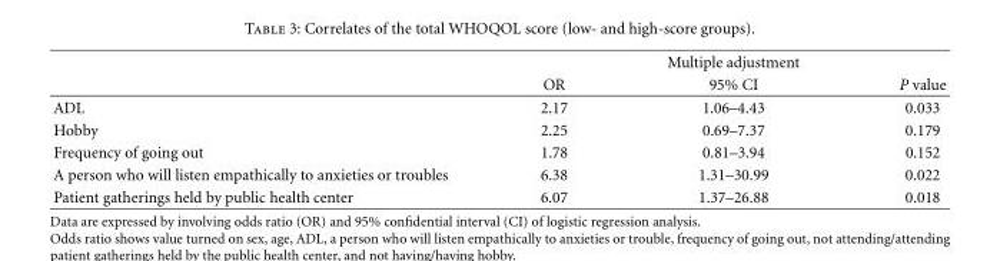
<table><thead><tr><td rowspan="2"></td><td rowspan="2">OR</td><td rowspan="2">Multiple adjustment 95% CI</td><td rowspan="2">P value</td></tr><tr></tr></thead><tbody><tr><td>ADL</td><td>2.17</td><td>1.06–4.43</td><td>0.033</td></tr><tr><td>Hobby</td><td>2.25</td><td>0.69–7.37</td><td>0.179</td></tr><tr><td>Frequency of going out</td><td>1.78</td><td>0.81–3.94</td><td>0.152</td></tr><tr><td>A person who will listen empathically to anxieties or troubles</td><td>6.38</td><td>1.31–30.99</td><td>0.022</td></tr><tr><td>Patient gatherings held by public health center</td><td>6.07</td><td>1.37–26.88</td><td>0.018</td></tr></tbody></table>